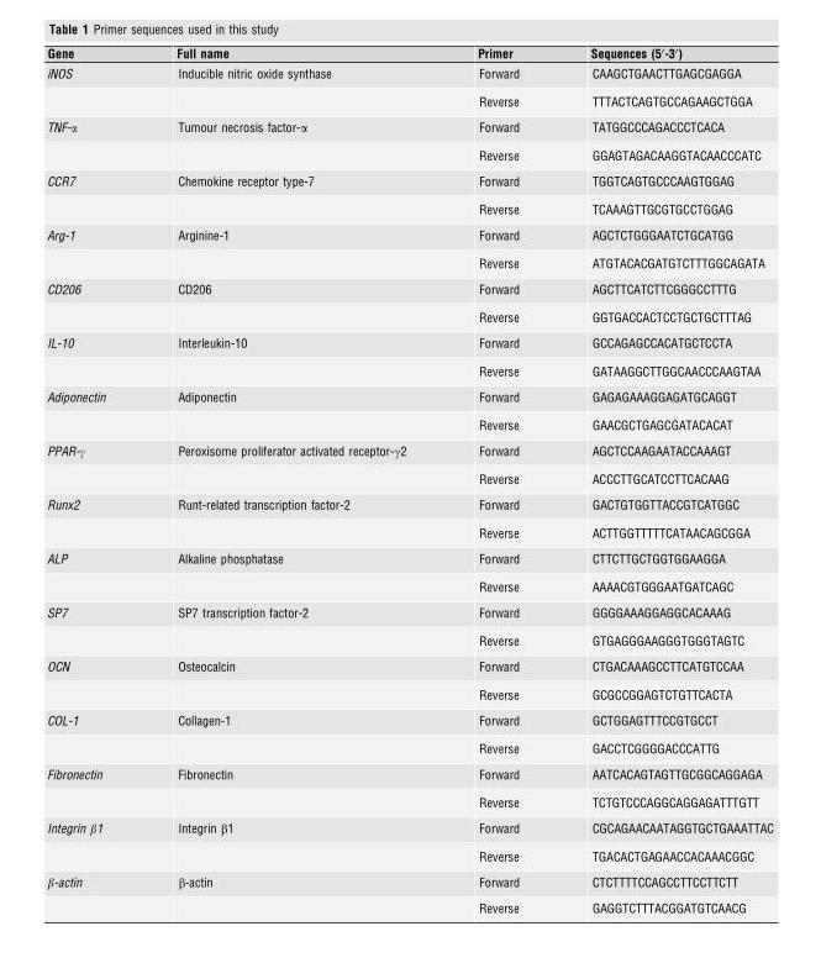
<table><thead><tr><td>Gene</td><td>Full name</td><td>Primer</td><td>Sequences (5′-3′)</td></tr></thead><tbody><tr><td rowspan="2">iNOS</td><td>Inducible nitric oxide synthase</td><td>Forward</td><td>CAAGCTGAACTTGAGCGAGGA</td></tr><tr><td></td><td>Reverse</td><td>TTTACTCAGTGCCAGAAGCTGGA</td></tr><tr><td rowspan="2">TNF-α</td><td>Tumour necrosis factor-α</td><td>Forward</td><td>TATGGCCCAGACCCTCACA</td></tr><tr><td></td><td>Reverse</td><td>GGAGTAGACAAGGTACAACCCATC</td></tr><tr><td rowspan="2">CCR7</td><td>Chemokine receptor type-7</td><td>Forward</td><td>TGGTCAGTGCCCAAGTGGAG</td></tr><tr><td></td><td>Reverse</td><td>TCAAAGTTGCGTGCCTGGAG</td></tr><tr><td rowspan="2">Arg-1</td><td>Arginine-1</td><td>Forward</td><td>AGCTCTGGGAATCTGCATGG</td></tr><tr><td></td><td>Reverse</td><td>ATGTACACGATGTCTTTGGCAGATA</td></tr><tr><td rowspan="2">CD206</td><td>CD206</td><td>Forward</td><td>AGCTTCATCTTCGGGCCTTTG</td></tr><tr><td></td><td>Reverse</td><td>GGTGACCACTCCTGCTGCTTTAG</td></tr><tr><td rowspan="2">IL-10</td><td>Interleukin-10</td><td>Forward</td><td>GCCAGAGCCACATGCTCCTA</td></tr><tr><td></td><td>Reverse</td><td>GATAAGGCTTGGCAACCCAAGTAA</td></tr><tr><td rowspan="2">Adiponectin</td><td>Adiponectin</td><td>Forward</td><td>GAGAGAAAGGAGATGCAGGT</td></tr><tr><td></td><td>Reverse</td><td>GAACGCTGAGCGATACACAT</td></tr><tr><td rowspan="2">PPAR-γ</td><td>Peroxisome proliferator activated receptor-γ2</td><td>Forward</td><td>AGCTCCAAGAATACCAAAGT</td></tr><tr><td></td><td>Reverse</td><td>ACCCTTGCATCCTTCACAAG</td></tr><tr><td rowspan="2">Runx2</td><td>Runt-related transcription factor-2</td><td>Forward</td><td>GACTGTGGTTACCGTCATGGC</td></tr><tr><td></td><td>Reverse</td><td>ACTTGGTTTTTCATAACAGCGGA</td></tr><tr><td rowspan="2">ALP</td><td>Alkaline phosphatase</td><td>Forward</td><td>CTTCTTGCTGGTGGAAGGA</td></tr><tr><td></td><td>Reverse</td><td>AAAACGTGGGAATGATCAGC</td></tr><tr><td rowspan="2">SP7</td><td>SP7 transcription factor-2</td><td>Forward</td><td>GGGGAAAGGAGGCACAAAG</td></tr><tr><td></td><td>Reverse</td><td>GTGAGGGAAGGGTGGGTAGTC</td></tr><tr><td rowspan="2">OCN</td><td>Osteocalcin</td><td>Forward</td><td>CTGACAAAGCCTTCATGTCCAA</td></tr><tr><td></td><td>Reverse</td><td>GCGCCGGAGTCTGTTCACTA</td></tr><tr><td rowspan="2">COL-1</td><td>Collagen-1</td><td>Forward</td><td>GCTGGAGTTTCCGTGCCT</td></tr><tr><td></td><td>Reverse</td><td>GACCTCGGGGACCCATTG</td></tr><tr><td rowspan="2">Fibronectin</td><td>Fibronectin</td><td>Forward</td><td>AATCACAGTAGTTGCGGCAGGAGA</td></tr><tr><td></td><td>Reverse</td><td>TCTGTCCCAGGCAGGAGATTTGTT</td></tr><tr><td rowspan="2">Integrin β1</td><td>Integrin β1</td><td>Forward</td><td>CGCAGAACAATAGGTGCTGAAATTAC</td></tr><tr><td></td><td>Reverse</td><td>TGACACTGAGAACCACAAACGGC</td></tr><tr><td rowspan="2">β-actin</td><td>β-actin</td><td>Forward</td><td>CTCTTTTCCAGCCTTCCTTCTT</td></tr><tr><td></td><td>Reverse</td><td>GAGGTCTTTACGGATGTCAACG</td></tr></tbody></table>